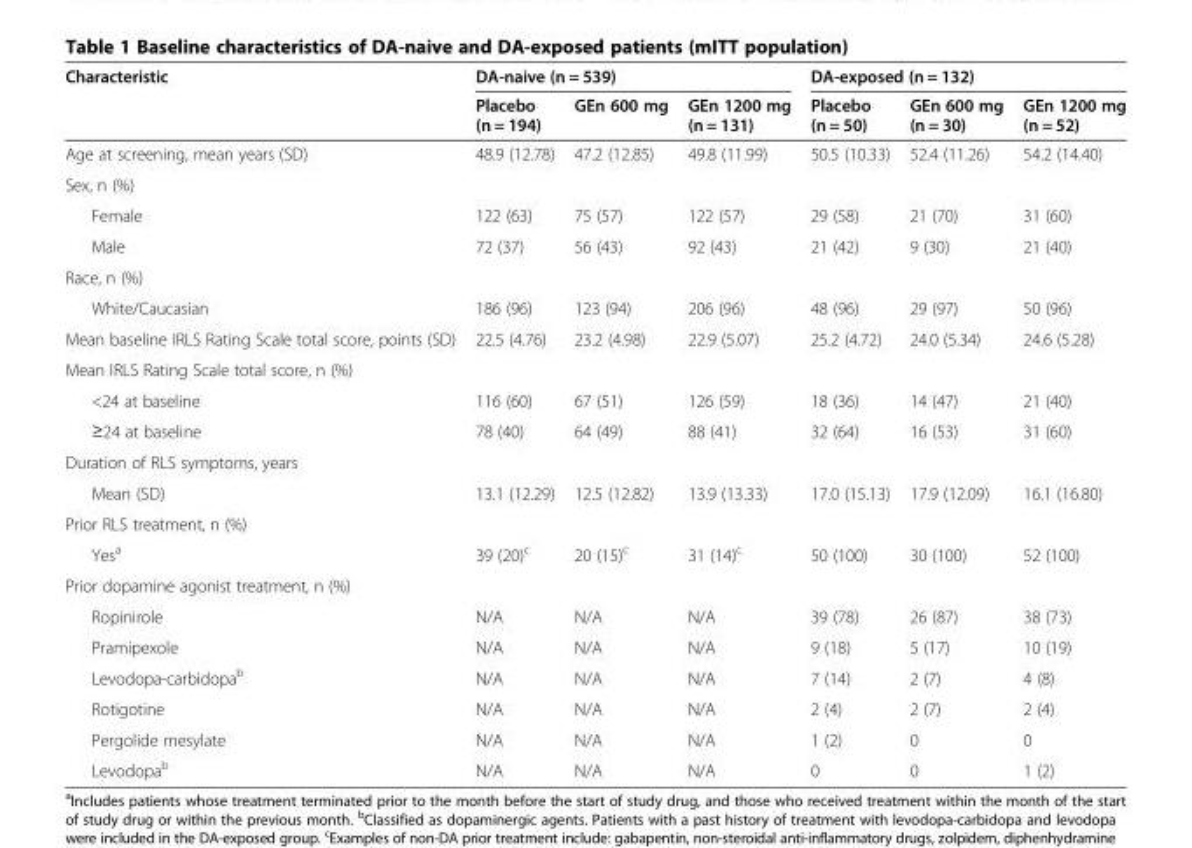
<table><thead><tr><td rowspan="2">Characteristic</td><td colspan="3">DA-naive (n = 539)</td><td colspan="3">DA-exposed (n = 132)</td></tr><tr><td>Placebo (n = 194)</td><td>GEn 600 mg</td><td>GEn 1200 mg (n = 131)</td><td>Placebo (n = 50)</td><td>GEn 600 mg (n = 30)</td><td>GEn 1200 mg (n = 52)</td></tr></thead><tbody><tr><td>Age at screening, mean years (SD)</td><td>48.9 (12.78)</td><td>47.2 (12.85)</td><td>49.8 (11.99)</td><td>50.5 (10.33)</td><td>52.4 (11.26)</td><td>54.2 (14.40)</td></tr><tr><td colspan="7">Sex, n (%)</td></tr><tr><td>Female</td><td>122 (63)</td><td>75 (57)</td><td>122 (57)</td><td>29 (58)</td><td>21 (70)</td><td>31 (60)</td></tr><tr><td>Male</td><td>72 (37)</td><td>56 (43)</td><td>92 (43)</td><td>21 (42)</td><td>9 (30)</td><td>21 (40)</td></tr><tr><td colspan="7">Race, n (%)</td></tr><tr><td>White/Caucasian</td><td>186 (96)</td><td>123 (94)</td><td>206 (96)</td><td>48 (96)</td><td>29 (97)</td><td>50 (96)</td></tr><tr><td>Mean baseline IRLS Rating Scale total score, points (SD)</td><td>22.5 (4.76)</td><td>23.2 (4.98)</td><td>22.9 (5.07)</td><td>25.2 (4.72)</td><td>24.0 (5.34)</td><td>24.6 (5.28)</td></tr><tr><td colspan="7">Mean IRLS Rating Scale total score, n (%)</td></tr><tr><td>&lt;24 at baseline</td><td>116 (60)</td><td>67 (51)</td><td>126 (59)</td><td>18 (36)</td><td>14 (47)</td><td>21 (40)</td></tr><tr><td>≥24 at baseline</td><td>78 (40)</td><td>64 (49)</td><td>88 (41)</td><td>32 (64)</td><td>16 (53)</td><td>31 (60)</td></tr><tr><td colspan="7">Duration of RLS symptoms, years</td></tr><tr><td>Mean (SD)</td><td>13.1 (12.29)</td><td>12.5 (12.82)</td><td>13.9 (13.33)</td><td>17.0 (15.13)</td><td>17.9 (12.09)</td><td>16.1 (16.80)</td></tr><tr><td colspan="7">Prior RLS treatment, n (%)</td></tr><tr><td>Yes<sup>a</sup></td><td>39 (20)<sup>c</sup></td><td>20 (15)<sup>c</sup></td><td>31 (14)<sup>c</sup></td><td>50 (100)</td><td>30 (100)</td><td>52 (100)</td></tr><tr><td colspan="7">Prior dopamine agonist treatment, n (%)</td></tr><tr><td>Ropinirole</td><td>N/A</td><td>N/A</td><td>N/A</td><td>39 (78)</td><td>26 (87)</td><td>38 (73)</td></tr><tr><td>Pramipexole</td><td>N/A</td><td>N/A</td><td>N/A</td><td>9 (18)</td><td>5 (17)</td><td>10 (19)</td></tr><tr><td>Levodopa-carbidopa<sup>b</sup></td><td>N/A</td><td>N/A</td><td>N/A</td><td>7 (14)</td><td>2 (7)</td><td>4 (8)</td></tr><tr><td>Rotigotine</td><td>N/A</td><td>N/A</td><td>N/A</td><td>2 (4)</td><td>2 (7)</td><td>2 (4)</td></tr><tr><td>Pergolide mesylate</td><td>N/A</td><td>N/A</td><td>N/A</td><td>1 (2)</td><td>0</td><td>0</td></tr><tr><td>Levodopa<sup>b</sup></td><td>N/A</td><td>N/A</td><td>N/A</td><td>0</td><td>0</td><td>1 (2)</td></tr></tbody></table>